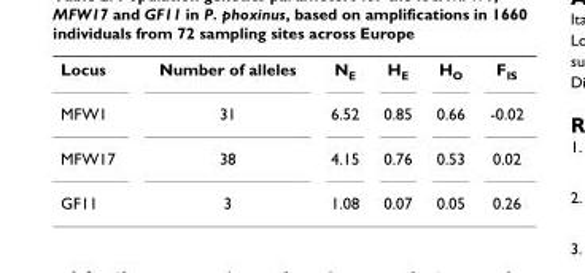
<table><tbody><tr><td>Locus</td><td>Number of alleles</td><td>N<sub>E</sub></td><td>H<sub>E</sub></td><td>H<sub>O</sub></td><td>F<sub>IS</sub></td></tr><tr><td>MFW1</td><td>31</td><td>6.52</td><td>0.85</td><td>0.66</td><td>-0.02</td></tr><tr><td>MFW17</td><td>38</td><td>4.15</td><td>0.76</td><td>0.53</td><td>0.02</td></tr><tr><td>GF11</td><td>3</td><td>1.08</td><td>0.07</td><td>0.05</td><td>0.26</td></tr></tbody></table>